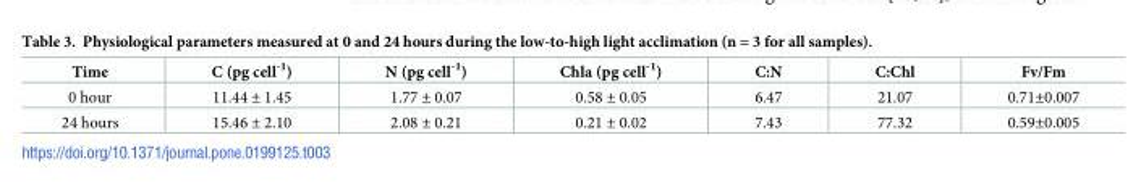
<table><thead><tr><td>Time</td><td>C (pg cell<sup>-1</sup>)</td><td>N (pg cell<sup>-1</sup>)</td><td>Chla (pg cell<sup>-1</sup>)</td><td>C:N</td><td>C:Chl</td><td>Fv/Fm</td></tr></thead><tbody><tr><td>0 hour</td><td>11.44 ± 1.45</td><td>1.77 ± 0.07</td><td>0.58 ± 0.05</td><td>6.47</td><td>21.07</td><td>0.71±0.007</td></tr><tr><td>24 hours</td><td>15.46 ± 2.10</td><td>2.08 ± 0.21</td><td>0.21 ± 0.02</td><td>7.43</td><td>77.32</td><td>0.59±0.005</td></tr></tbody></table>